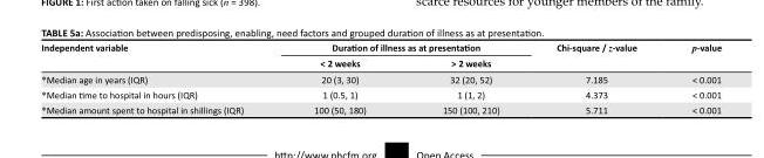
<table><thead><tr><td rowspan="2">Independent variable</td><td colspan="2">Duration of illness as at presentation</td><td rowspan="2">Chi-square / z-value</td><td rowspan="2">p-value</td></tr><tr><td>&lt; 2 weeks</td><td>&gt; 2 weeks</td></tr></thead><tbody><tr><td>*Median age in years (IQR)</td><td>20 (3, 30)</td><td>32 (20, 52)</td><td>7.185</td><td>&lt; 0.001</td></tr><tr><td>*Median time to hospital in hours (IQR)</td><td>1 (0.5, 1)</td><td>1 (1, 2)</td><td>4.373</td><td>&lt; 0.001</td></tr><tr><td>*Median amount spent to hospital in shillings (IQR)</td><td>100 (50, 180)</td><td>150 (100, 210)</td><td>5.711</td><td>&lt; 0.001</td></tr></tbody></table>